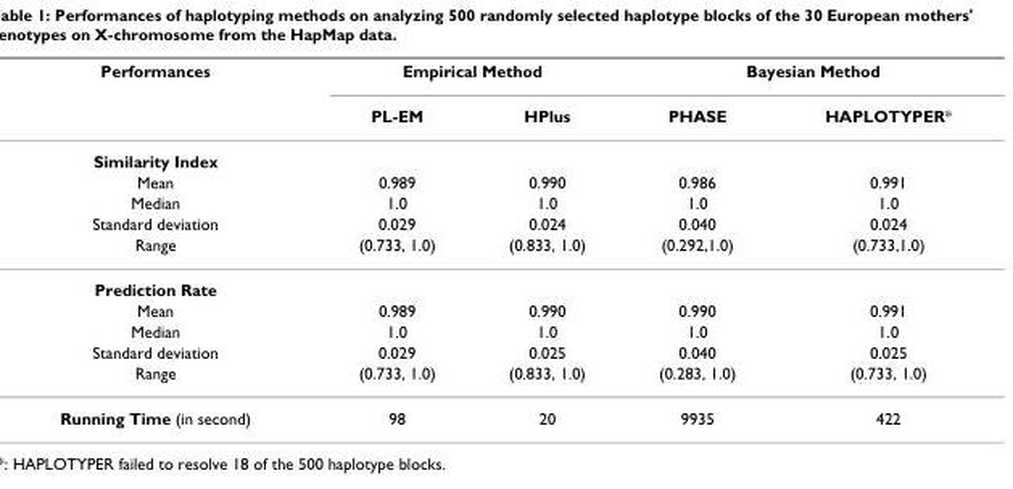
<table><thead><tr><td rowspan="2">Performances</td><td colspan="2">Empirical Method</td><td colspan="2">Bayesian Method</td></tr><tr><td>PL-EM</td><td>HPlus</td><td>PHASE</td><td>HAPLOTYPER*</td></tr></thead><tbody><tr><td colspan="5">Similarity Index</td></tr><tr><td>Mean</td><td>0.989</td><td>0.990</td><td>0.986</td><td>0.991</td></tr><tr><td>Median</td><td>1.0</td><td>1.0</td><td>1.0</td><td>1.0</td></tr><tr><td>Standard deviation</td><td>0.029</td><td>0.024</td><td>0.040</td><td>0.024</td></tr><tr><td>Range</td><td>(0.733, 1.0)</td><td>(0.833, 1.0)</td><td>(0.292,1.0)</td><td>(0.733,1.0)</td></tr><tr><td colspan="5">Prediction Rate</td></tr><tr><td>Mean</td><td>0.989</td><td>0.990</td><td>0.990</td><td>0.991</td></tr><tr><td>Median</td><td>1.0</td><td>1.0</td><td>1.0</td><td>1.0</td></tr><tr><td>Standard deviation</td><td>0.029</td><td>0.025</td><td>0.040</td><td>0.025</td></tr><tr><td>Range</td><td>(0.733, 1.0)</td><td>(0.833, 1.0)</td><td>(0.283, 1.0)</td><td>(0.733, 1.0)</td></tr><tr><td>Running Time (in second)</td><td>98</td><td>20</td><td>9935</td><td>422</td></tr></tbody></table>